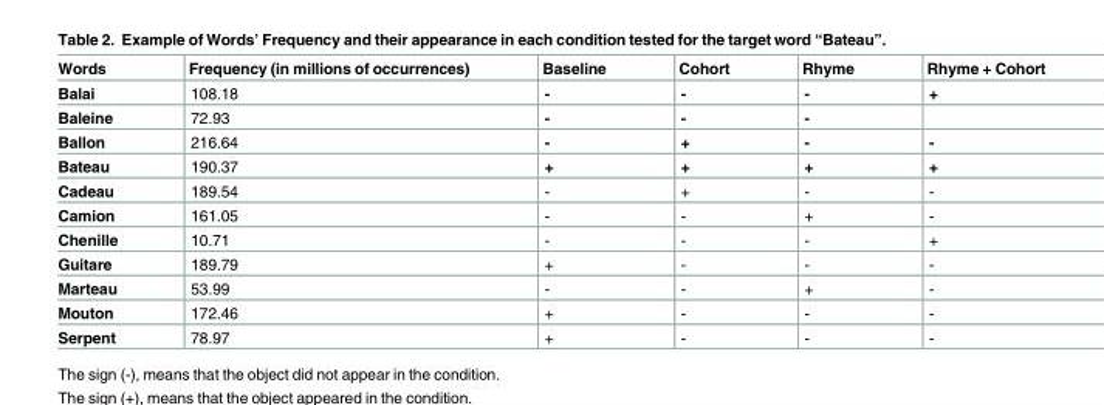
<table><thead><tr><td>Words</td><td>Frequency (in millions of occurrences)</td><td>Baseline</td><td>Cohort</td><td>Rhyme</td><td>Rhyme + Cohort</td></tr></thead><tbody><tr><td>Balai</td><td>108.18</td><td>-</td><td>-</td><td>-</td><td>+</td></tr><tr><td>Baleine</td><td>72.93</td><td>-</td><td>-</td><td>-</td><td></td></tr><tr><td>Ballon</td><td>216.64</td><td>-</td><td>+</td><td>-</td><td>-</td></tr><tr><td>Bateau</td><td>190.37</td><td>+</td><td>+</td><td>+</td><td>+</td></tr><tr><td>Cadeau</td><td>189.54</td><td>-</td><td>+</td><td>-</td><td>-</td></tr><tr><td>Camion</td><td>161.05</td><td>-</td><td>-</td><td>+</td><td>-</td></tr><tr><td>Chenille</td><td>10.71</td><td>-</td><td>-</td><td>-</td><td>+</td></tr><tr><td>Guitare</td><td>189.79</td><td>+</td><td>-</td><td>-</td><td>-</td></tr><tr><td>Marteau</td><td>53.99</td><td>-</td><td>-</td><td>+</td><td>-</td></tr><tr><td>Mouton</td><td>172.46</td><td>+</td><td>-</td><td>-</td><td>-</td></tr><tr><td>Serpent</td><td>78.97</td><td>+</td><td>-</td><td>-</td><td>-</td></tr></tbody></table>